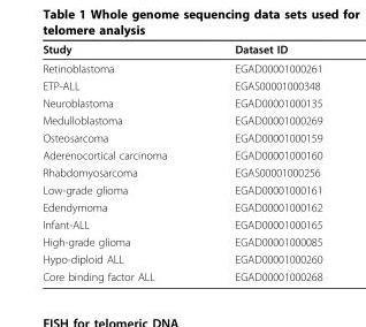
<table><thead><tr><td>Study</td><td>Dataset ID</td></tr></thead><tbody><tr><td>Retinoblastoma</td><td>EGAD00001000261</td></tr><tr><td>ETP-ALL</td><td>EGAS00001000348</td></tr><tr><td>Neuroblastoma</td><td>EGAD00001000135</td></tr><tr><td>Medulloblastoma</td><td>EGAD00001000269</td></tr><tr><td>Osteosarcoma</td><td>EGAD00001000159</td></tr><tr><td>Aderenocortical carcinoma</td><td>EGAD00001000160</td></tr><tr><td>Rhabdomyosarcoma</td><td>EGAS00001000256</td></tr><tr><td>Low-grade glioma</td><td>EGAD00001000161</td></tr><tr><td>Edendymoma</td><td>EGAD00001000162</td></tr><tr><td>Infant-ALL</td><td>EGAD00001000165</td></tr><tr><td>High-grade glioma</td><td>EGAD00001000085</td></tr><tr><td>Hypo-diploid ALL</td><td>EGAD00001000260</td></tr><tr><td>Core binding factor ALL</td><td>EGAD00001000268</td></tr></tbody></table>